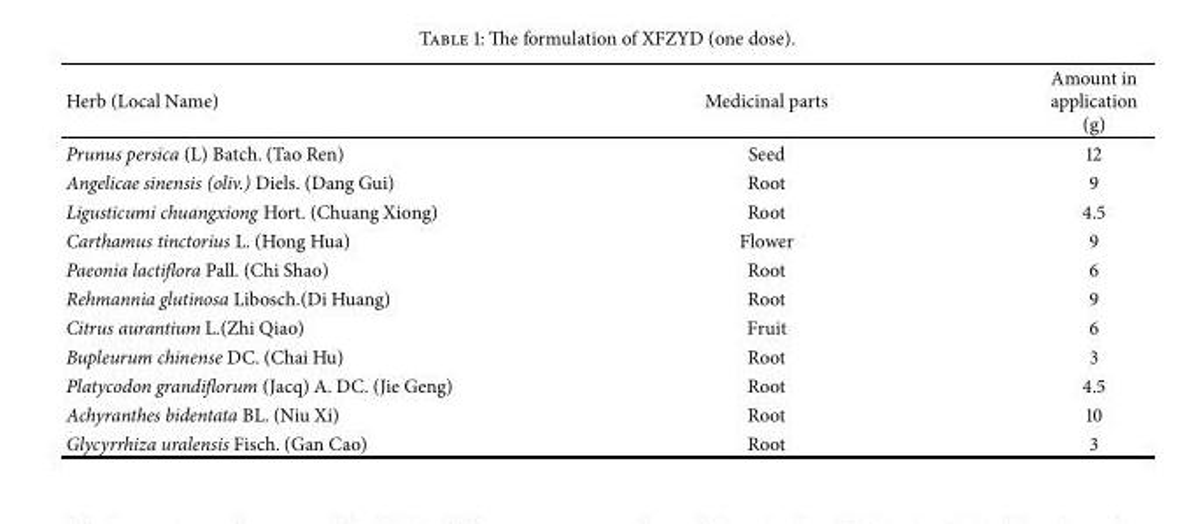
<table><thead><tr><td>Herb (Local Name)</td><td>Medicinal parts</td><td>Amount in application (g)</td></tr></thead><tbody><tr><td>Prunus persica (L) Batch. (Tao Ren)</td><td>Seed</td><td>12</td></tr><tr><td>Angelicae sinensis (oliv.) Diels. (Dang Gui)</td><td>Root</td><td>9</td></tr><tr><td>Ligusticumi chuangxiong Hort. (Chuang Xiong)</td><td>Root</td><td>4.5</td></tr><tr><td>Carthamus tinctorius L. (Hong Hua)</td><td>Flower</td><td>9</td></tr><tr><td>Paeonia lactiflora Pall. (Chi Shao)</td><td>Root</td><td>6</td></tr><tr><td>Rehmannia glutinosa Libosch.(Di Huang)</td><td>Root</td><td>9</td></tr><tr><td>Citrus aurantium L.(Zhi Qiao)</td><td>Fruit</td><td>6</td></tr><tr><td>Bupleurum chinense DC. (Chai Hu)</td><td>Root</td><td>3</td></tr><tr><td>Platycodon grandiflorum (Jacq) A. DC. (Jie Geng)</td><td>Root</td><td>4.5</td></tr><tr><td>Achyranthes bidentata BL. (Niu Xi)</td><td>Root</td><td>10</td></tr><tr><td>Glycyrrhiza uralensis Fisch. (Gan Cao)</td><td>Root</td><td>3</td></tr></tbody></table>